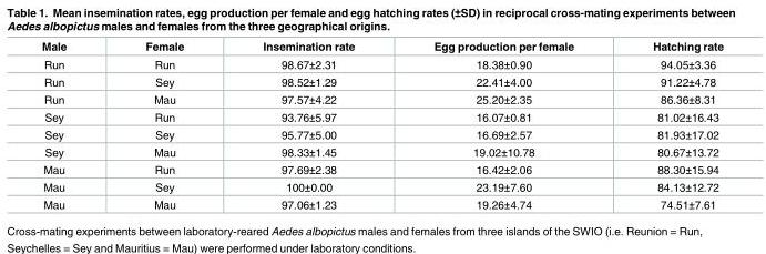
<table><thead><tr><td>Male</td><td>Female</td><td>Insemination rate</td><td>Egg production per female</td><td>Hatching rate</td></tr></thead><tbody><tr><td>Run</td><td>Run</td><td>98.67±2.31</td><td>18.38±0.90</td><td>94.05±3.36</td></tr><tr><td>Run</td><td>Sey</td><td>98.52±1.29</td><td>22.41±4.00</td><td>91.22±4.78</td></tr><tr><td>Run</td><td>Mau</td><td>97.57±4.22</td><td>25.20±2.35</td><td>86.36±8.31</td></tr><tr><td>Sey</td><td>Run</td><td>93.76±5.97</td><td>16.07±0.81</td><td>81.02±16.43</td></tr><tr><td>Sey</td><td>Sey</td><td>95.77±5.00</td><td>16.69±2.57</td><td>81.93±17.02</td></tr><tr><td>Sey</td><td>Mau</td><td>98.33±1.45</td><td>19.02±10.78</td><td>80.67±13.72</td></tr><tr><td>Mau</td><td>Run</td><td>97.69±2.38</td><td>16.42±2.06</td><td>88.30±15.94</td></tr><tr><td>Mau</td><td>Sey</td><td>100±0.00</td><td>23.19±7.60</td><td>84.13±12.72</td></tr><tr><td>Mau</td><td>Mau</td><td>97.06±1.23</td><td>19.26±4.74</td><td>74.51±7.61</td></tr></tbody></table>